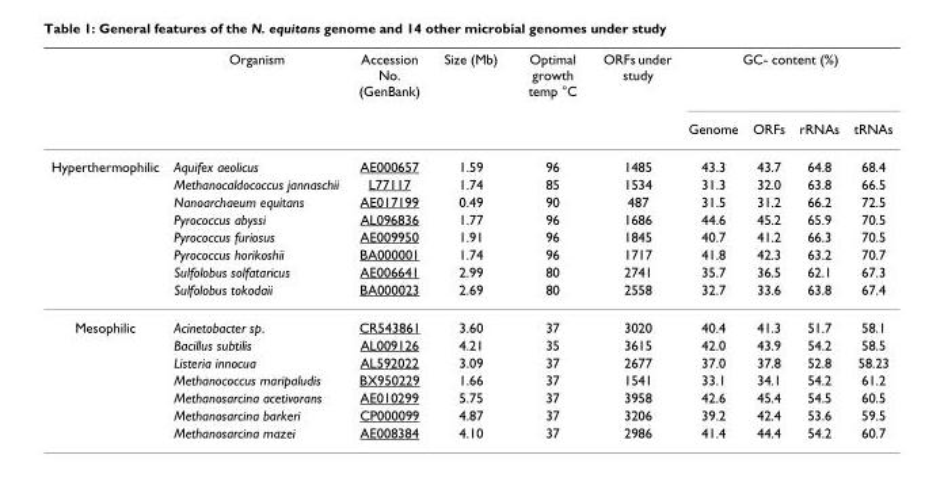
<table><thead><tr><td rowspan="2"></td><td rowspan="2">Organism</td><td rowspan="2">Accession No. (GenBank)</td><td rowspan="2">Size (Mb)</td><td rowspan="2">Optimal growth temp °C</td><td rowspan="2">ORFs under study</td><td colspan="4">GC- content (%)</td></tr><tr><td>Genome</td><td>ORFs</td><td>rRNAs</td><td>tRNAs</td></tr></thead><tbody><tr><td rowspan="8">Hyperthermophilic</td><td>Aquifex aeolicus</td><td>AE000657</td><td>1.59</td><td>96</td><td>1485</td><td>43.3</td><td>43.7</td><td>64.8</td><td>68.4</td></tr><tr><td>Methanocaldococcus jannaschii</td><td>L77117</td><td>1.74</td><td>85</td><td>1534</td><td>31.3</td><td>32.0</td><td>63.8</td><td>66.5</td></tr><tr><td>Nanoarchaeum equitans</td><td>AE017199</td><td>0.49</td><td>90</td><td>487</td><td>31.5</td><td>31.2</td><td>66.2</td><td>72.5</td></tr><tr><td>Pyrococcus abyssi</td><td>AL096836</td><td>1.77</td><td>96</td><td>1686</td><td>44.6</td><td>45.2</td><td>65.9</td><td>70.5</td></tr><tr><td>Pyrococcus furiosus</td><td>AE009950</td><td>1.91</td><td>96</td><td>1845</td><td>40.7</td><td>41.2</td><td>66.3</td><td>70.5</td></tr><tr><td>Pyrococcus horikoshii</td><td>BA000001</td><td>1.74</td><td>96</td><td>1717</td><td>41.8</td><td>42.3</td><td>63.2</td><td>70.7</td></tr><tr><td>Sulfolobus solfataricus</td><td>AE006641</td><td>2.99</td><td>80</td><td>2741</td><td>35.7</td><td>36.5</td><td>62.1</td><td>67.3</td></tr><tr><td>Sulfolobus tokodaii</td><td>BA000023</td><td>2.69</td><td>80</td><td>2558</td><td>32.7</td><td>33.6</td><td>63.8</td><td>67.4</td></tr><tr><td rowspan="7">Mesophilic</td><td>Acinetobacter sp.</td><td>CR543861</td><td>3.60</td><td>37</td><td>3020</td><td>40.4</td><td>41.3</td><td>51.7</td><td>58.1</td></tr><tr><td>Bacillus subtilis</td><td>AL009126</td><td>4.21</td><td>35</td><td>3615</td><td>42.0</td><td>43.9</td><td>54.2</td><td>58.5</td></tr><tr><td>Listeria innocua</td><td>AL592022</td><td>3.09</td><td>37</td><td>2677</td><td>37.0</td><td>37.8</td><td>52.8</td><td>58.23</td></tr><tr><td>Methanococcus maripaludis</td><td>BX950229</td><td>1.66</td><td>37</td><td>1541</td><td>33.1</td><td>34.1</td><td>54.2</td><td>61.2</td></tr><tr><td>Methanosarcina acetivorans</td><td>AE010299</td><td>5.75</td><td>37</td><td>3958</td><td>42.6</td><td>45.4</td><td>54.5</td><td>60.5</td></tr><tr><td>Methanosarcina barkeri</td><td>CP000099</td><td>4.87</td><td>37</td><td>3206</td><td>39.2</td><td>42.4</td><td>53.6</td><td>59.5</td></tr><tr><td>Methanosarcina mazei</td><td>AE008384</td><td>4.10</td><td>37</td><td>2986</td><td>41.4</td><td>44.4</td><td>54.2</td><td>60.7</td></tr></tbody></table>